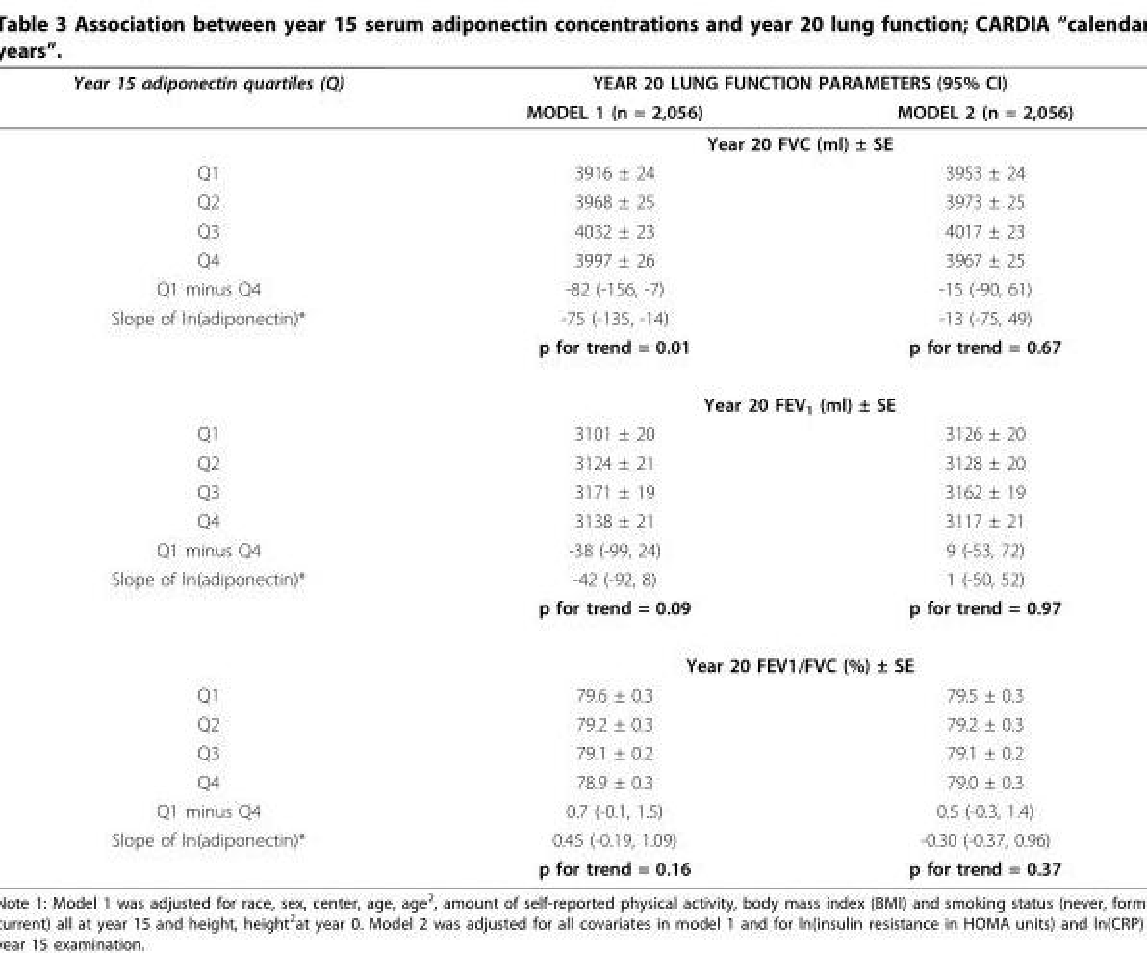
<table><thead><tr><td rowspan="2">Year 15 adiponectin quartiles (Q)</td><td colspan="2">YEAR 20 LUNG FUNCTION PARAMETERS (95% CI)</td></tr><tr><td>MODEL 1 (n = 2,056)</td><td>MODEL 2 (n = 2,056)</td></tr></thead><tbody><tr><td></td><td colspan="2">Year 20 FVC (ml) ± SE</td></tr><tr><td>Q1</td><td>3916 ± 24</td><td>3953 ± 24</td></tr><tr><td>Q2</td><td>3968 ± 25</td><td>3973 ± 25</td></tr><tr><td>Q3</td><td>4032 ± 23</td><td>4017 ± 23</td></tr><tr><td>Q4</td><td>3997 ± 26</td><td>3967 ± 25</td></tr><tr><td>Q1 minus Q4</td><td>-82 (-156, -7)</td><td>-15 (-90, 61)</td></tr><tr><td rowspan="3">Slope of ln(adiponectin)*</td><td>-75 (-135, -14)</td><td>-13 (-75, 49)</td></tr><tr><td>p for trend = 0.01</td><td>p for trend = 0.67</td></tr><tr><td colspan="2">Year 20 FEV<sub>1</sub> (ml) ± SE</td></tr><tr><td>Q1</td><td>3101 ± 20</td><td>3126 ± 20</td></tr><tr><td>Q2</td><td>3124 ± 21</td><td>3128 ± 20</td></tr><tr><td>Q3</td><td>3171 ± 19</td><td>3162 ± 19</td></tr><tr><td>Q4</td><td>3138 ± 21</td><td>3117 ± 21</td></tr><tr><td>Q1 minus Q4</td><td>-38 (-99, 24)</td><td>9 (-53, 72)</td></tr><tr><td rowspan="3">Slope of ln(adiponectin)*</td><td>-42 (-92, 8)</td><td>1 (-50, 52)</td></tr><tr><td>p for trend = 0.09</td><td>p for trend = 0.97</td></tr><tr><td colspan="2">Year 20 FEV1/FVC (%) ± SE</td></tr><tr><td>Q1</td><td>79.6 ± 0.3</td><td>79.5 ± 0.3</td></tr><tr><td>Q2</td><td>79.2 ± 0.3</td><td>79.2 ± 0.3</td></tr><tr><td>Q3</td><td>79.1 ± 0.2</td><td>79.1 ± 0.2</td></tr><tr><td>Q4</td><td>78.9 ± 0.3</td><td>79.0 ± 0.3</td></tr><tr><td>Q1 minus Q4</td><td>0.7 (-0.1, 1.5)</td><td>0.5 (-0.3, 1.4)</td></tr><tr><td rowspan="2">Slope of ln(adiponectin)*</td><td>0.45 (-0.19, 1.09)</td><td>-0.30 (-0.37, 0.96)</td></tr><tr><td>p for trend = 0.16</td><td>p for trend = 0.37</td></tr></tbody></table>